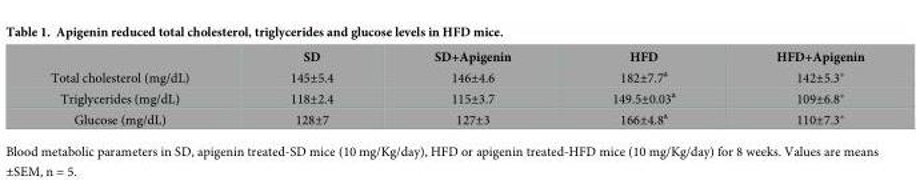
<table><thead><tr><td></td><td>SD</td><td>SD+Apigenin</td><td>HFD</td><td>HFD+Apigenin</td></tr></thead><tbody><tr><td>Total cholesterol (mg/dL)</td><td>145±5.4</td><td>146±4.6</td><td>182±7.7<sup>a</sup></td><td>142±5.3*</td></tr><tr><td>Triglycerides (mg/dL)</td><td>118±2.4</td><td>115±3.7</td><td>149.5±0.03<sup>a</sup></td><td>109±6.8*</td></tr><tr><td>Glucose (mg/dL)</td><td>128±7</td><td>127±3</td><td>166±4.8<sup>a</sup></td><td>110±7.3*</td></tr></tbody></table>